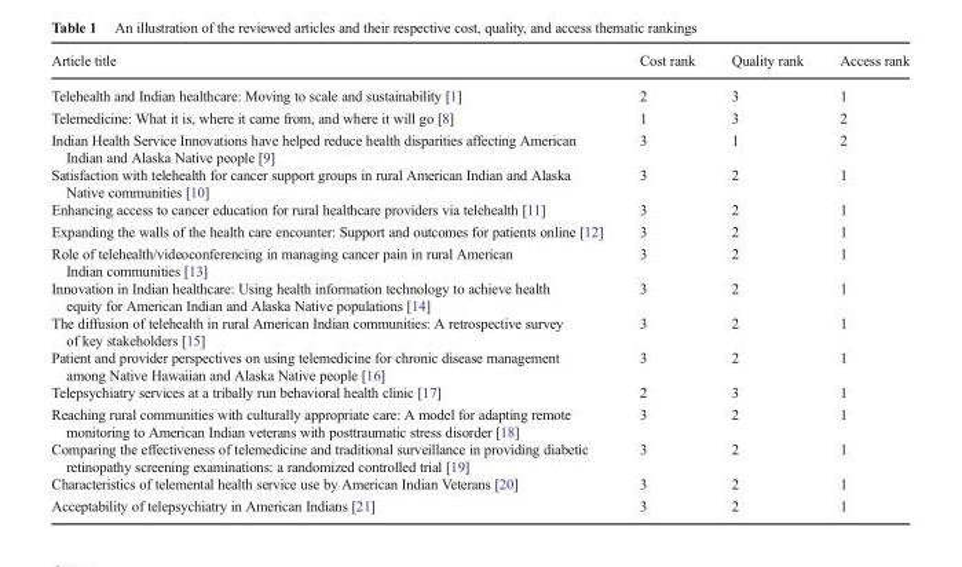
<table><thead><tr><td>Article title</td><td>Cost rank</td><td>Quality rank</td><td>Access rank</td></tr></thead><tbody><tr><td>Telehealth and Indian healthcare: Moving to scale and sustainability [1]</td><td>2</td><td>3</td><td>1</td></tr><tr><td>Telemedicine: What it is, where it came from, and where it will go [8]</td><td>1</td><td>3</td><td>2</td></tr><tr><td>Indian Health Service Innovations have helped reduce health disparities affecting American Indian and Alaska Native people [9]</td><td>3</td><td>1</td><td>2</td></tr><tr><td>Satisfaction with telehealth for cancer support groups in rural American Indian and Alaska Native communities [10]</td><td>3</td><td>2</td><td>1</td></tr><tr><td>Enhancing access to cancer education for rural healthcare providers via telehealth [11]</td><td>3</td><td>2</td><td>1</td></tr><tr><td>Expanding the walls of the health care encounter: Support and outcomes for patients online [12]</td><td>3</td><td>2</td><td>1</td></tr><tr><td>Role of telehealth/videoconferencing in managing cancer pain in rural American Indian communities [13]</td><td>3</td><td>2</td><td>1</td></tr><tr><td>Innovation in Indian healthcare: Using health information technology to achieve health equity for American Indian and Alaska Native populations [14]</td><td>3</td><td>2</td><td>1</td></tr><tr><td>The diffusion of telehealth in rural American Indian communities: A retrospective survey of key stakeholders [15]</td><td>3</td><td>2</td><td>1</td></tr><tr><td>Patient and provider perspectives on using telemedicine for chronic disease management among Native Hawaiian and Alaska Native people [16]</td><td>3</td><td>2</td><td>1</td></tr><tr><td>Telepsychiatry services at a tribally run behavioral health clinic [17]</td><td>2</td><td>3</td><td>1</td></tr><tr><td>Reaching rural communities with culturally appropriate care: A model for adapting remote monitoring to American Indian veterans with posttraumatic stress disorder [18]</td><td>3</td><td>2</td><td>1</td></tr><tr><td>Comparing the effectiveness of telemedicine and traditional surveillance in providing diabetic retinopathy screening examinations: a randomized controlled trial [19]</td><td>3</td><td>2</td><td>1</td></tr><tr><td>Characteristics of telemental health service use by American Indian Veterans [20]</td><td>3</td><td>2</td><td>1</td></tr><tr><td>Acceptability of telepsychiatry in American Indians [21]</td><td>3</td><td>2</td><td>1</td></tr></tbody></table>